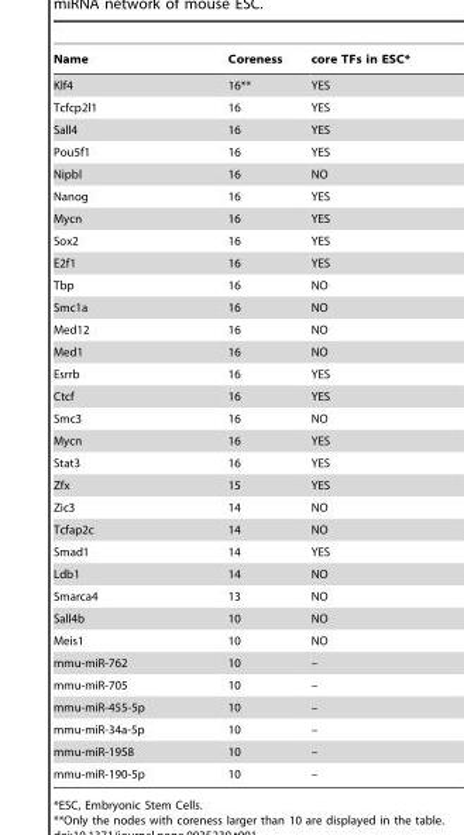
<table><thead><tr><td>Name</td><td>Coreness</td><td>core TFs in ESC*</td></tr></thead><tbody><tr><td>Klf4</td><td>16**</td><td>YES</td></tr><tr><td>Tcfcp2l1</td><td>16</td><td>YES</td></tr><tr><td>Sall4</td><td>16</td><td>YES</td></tr><tr><td>Pou5f1</td><td>16</td><td>YES</td></tr><tr><td>Nipbl</td><td>16</td><td>NO</td></tr><tr><td>Nanog</td><td>16</td><td>YES</td></tr><tr><td>Mycn</td><td>16</td><td>YES</td></tr><tr><td>Sox2</td><td>16</td><td>YES</td></tr><tr><td>E2f1</td><td>16</td><td>YES</td></tr><tr><td>Tbp</td><td>16</td><td>NO</td></tr><tr><td>Smc1a</td><td>16</td><td>NO</td></tr><tr><td>Med12</td><td>16</td><td>NO</td></tr><tr><td>Med1</td><td>16</td><td>NO</td></tr><tr><td>Esrrb</td><td>16</td><td>YES</td></tr><tr><td>Ctcf</td><td>16</td><td>YES</td></tr><tr><td>Smc3</td><td>16</td><td>NO</td></tr><tr><td>Mycn</td><td>16</td><td>YES</td></tr><tr><td>Stat3</td><td>16</td><td>YES</td></tr><tr><td>Zfx</td><td>15</td><td>YES</td></tr><tr><td>Zic3</td><td>14</td><td>NO</td></tr><tr><td>Tcfap2c</td><td>14</td><td>NO</td></tr><tr><td>Smad1</td><td>14</td><td>YES</td></tr><tr><td>Ldb1</td><td>14</td><td>NO</td></tr><tr><td>Smarca4</td><td>13</td><td>NO</td></tr><tr><td>Sall4b</td><td>10</td><td>NO</td></tr><tr><td>Meis1</td><td>10</td><td>NO</td></tr><tr><td>mmu-miR-762</td><td>10</td><td>–</td></tr><tr><td>mmu-miR-705</td><td>10</td><td>–</td></tr><tr><td>mmu-miR-455-5p</td><td>10</td><td>–</td></tr><tr><td>mmu-miR-34a-5p</td><td>10</td><td>–</td></tr><tr><td>mmu-miR-1958</td><td>10</td><td>–</td></tr><tr><td>mmu-miR-190-5p</td><td>10</td><td>–</td></tr></tbody></table>